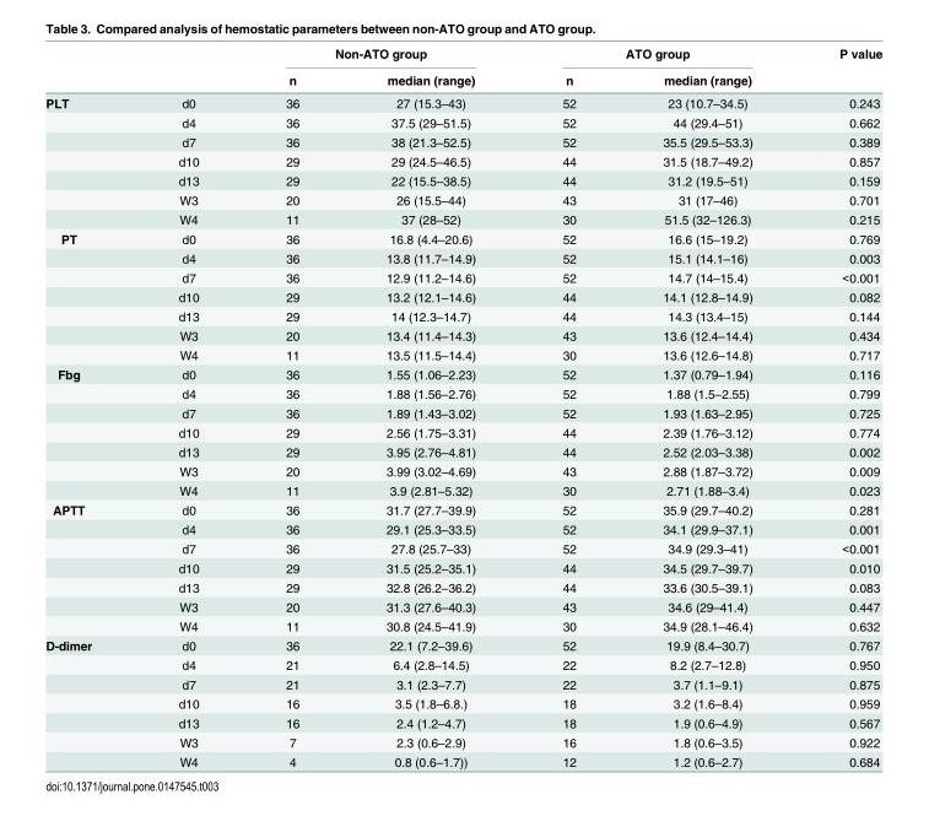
<table><thead><tr><td rowspan="2"></td><td rowspan="2"></td><td colspan="2">Non-ATO group</td><td colspan="2">ATO group</td><td rowspan="2">P value</td></tr><tr><td>n</td><td>median (range)</td><td>n</td><td>median (range)</td></tr></thead><tbody><tr><td rowspan="7">PLT</td><td>d0</td><td>36</td><td>27 (15.3–43)</td><td>52</td><td>23 (10.7–34.5)</td><td>0.243</td></tr><tr><td>d4</td><td>36</td><td>37.5 (29–51.5)</td><td>52</td><td>44 (29.4–51)</td><td>0.662</td></tr><tr><td>d7</td><td>36</td><td>38 (21.3–52.5)</td><td>52</td><td>35.5 (29.5–53.3)</td><td>0.389</td></tr><tr><td>d10</td><td>29</td><td>29 (24.5–46.5)</td><td>44</td><td>31.5 (18.7–49.2)</td><td>0.857</td></tr><tr><td>d13</td><td>29</td><td>22 (15.5–38.5)</td><td>44</td><td>31.2 (19.5–51)</td><td>0.159</td></tr><tr><td>W3</td><td>20</td><td>26 (15.5–44)</td><td>43</td><td>31 (17–46)</td><td>0.701</td></tr><tr><td>W4</td><td>11</td><td>37 (28–52)</td><td>30</td><td>51.5 (32–126.3)</td><td>0.215</td></tr><tr><td rowspan="7">PT</td><td>d0</td><td>36</td><td>16.8 (4.4–20.6)</td><td>52</td><td>16.6 (15–19.2)</td><td>0.769</td></tr><tr><td>d4</td><td>36</td><td>13.8 (11.7–14.9)</td><td>52</td><td>15.1 (14.1–16)</td><td>0.003</td></tr><tr><td>d7</td><td>36</td><td>12.9 (11.2–14.6)</td><td>52</td><td>14.7 (14–15.4)</td><td>&lt;0.001</td></tr><tr><td>d10</td><td>29</td><td>13.2 (12.1–14.6)</td><td>44</td><td>14.1 (12.8–14.9)</td><td>0.082</td></tr><tr><td>d13</td><td>29</td><td>14 (12.3–14.7)</td><td>44</td><td>14.3 (13.4–15)</td><td>0.144</td></tr><tr><td>W3</td><td>20</td><td>13.4 (11.4–14.3)</td><td>43</td><td>13.6 (12.4–14.4)</td><td>0.434</td></tr><tr><td>W4</td><td>11</td><td>13.5 (11.5–14.4)</td><td>30</td><td>13.6 (12.6–14.8)</td><td>0.717</td></tr><tr><td rowspan="7">Fbg</td><td>d0</td><td>36</td><td>1.55 (1.06–2.23)</td><td>52</td><td>1.37 (0.79–1.94)</td><td>0.116</td></tr><tr><td>d4</td><td>36</td><td>1.88 (1.56–2.76)</td><td>52</td><td>1.88 (1.5–2.55)</td><td>0.799</td></tr><tr><td>d7</td><td>36</td><td>1.89 (1.43–3.02)</td><td>52</td><td>1.93 (1.63–2.95)</td><td>0.725</td></tr><tr><td>d10</td><td>29</td><td>2.56 (1.75–3.31)</td><td>44</td><td>2.39 (1.76–3.12)</td><td>0.774</td></tr><tr><td>d13</td><td>29</td><td>3.95 (2.76–4.81)</td><td>44</td><td>2.52 (2.03–3.38)</td><td>0.002</td></tr><tr><td>W3</td><td>20</td><td>3.99 (3.02–4.69)</td><td>43</td><td>2.88 (1.87–3.72)</td><td>0.009</td></tr><tr><td>W4</td><td>11</td><td>3.9 (2.81–5.32)</td><td>30</td><td>2.71 (1.88–3.4)</td><td>0.023</td></tr><tr><td rowspan="7">APTT</td><td>d0</td><td>36</td><td>31.7 (27.7–39.9)</td><td>52</td><td>35.9 (29.7–40.2)</td><td>0.281</td></tr><tr><td>d4</td><td>36</td><td>29.1 (25.3–33.5)</td><td>52</td><td>34.1 (29.9–37.1)</td><td>0.001</td></tr><tr><td>d7</td><td>36</td><td>27.8 (25.7–33)</td><td>52</td><td>34.9 (29.3–41)</td><td>&lt;0.001</td></tr><tr><td>d10</td><td>29</td><td>31.5 (25.2–35.1)</td><td>44</td><td>34.5 (29.7–39.7)</td><td>0.010</td></tr><tr><td>d13</td><td>29</td><td>32.8 (26.2–36.2)</td><td>44</td><td>33.6 (30.5–39.1)</td><td>0.083</td></tr><tr><td>W3</td><td>20</td><td>31.3 (27.6–40.3)</td><td>43</td><td>34.6 (29–41.4)</td><td>0.447</td></tr><tr><td>W4</td><td>11</td><td>30.8 (24.5–41.9)</td><td>30</td><td>34.9 (28.1–46.4)</td><td>0.632</td></tr><tr><td rowspan="7">D-dimer</td><td>d0</td><td>36</td><td>22.1 (7.2–39.6)</td><td>52</td><td>19.9 (8.4–30.7)</td><td>0.767</td></tr><tr><td>d4</td><td>21</td><td>6.4 (2.8–14.5)</td><td>22</td><td>8.2 (2.7–12.8)</td><td>0.950</td></tr><tr><td>d7</td><td>21</td><td>3.1 (2.3–7.7)</td><td>22</td><td>3.7 (1.1–9.1)</td><td>0.875</td></tr><tr><td>d10</td><td>16</td><td>3.5 (1.8–6.8.)</td><td>18</td><td>3.2 (1.6–8.4)</td><td>0.959</td></tr><tr><td>d13</td><td>16</td><td>2.4 (1.2–4.7)</td><td>18</td><td>1.9 (0.6–4.9)</td><td>0.567</td></tr><tr><td>W3</td><td>7</td><td>2.3 (0.6–2.9)</td><td>16</td><td>1.8 (0.6–3.5)</td><td>0.922</td></tr><tr><td>W4</td><td>4</td><td>0.8 (0.6–1.7))</td><td>12</td><td>1.2 (0.6–2.7)</td><td>0.684</td></tr></tbody></table>